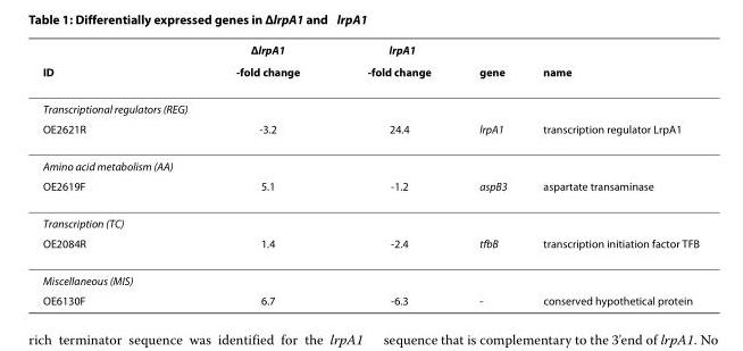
<table><thead><tr><td rowspan="2">ID</td><td rowspan="2">ΔlrpA1 -fold change</td><td rowspan="2">↑lrpA1 -fold change</td><td rowspan="2">gene</td><td rowspan="2">name</td></tr><tr></tr></thead><tbody><tr><td colspan="5">Transcriptional regulators (REG)</td></tr><tr><td>OE2621R</td><td>-3.2</td><td>24.4</td><td>lrpA1</td><td>transcription regulator LrpA1</td></tr><tr><td colspan="5">Amino acid metabolism (AA)</td></tr><tr><td>OE2619F</td><td>5.1</td><td>-1.2</td><td>aspB3</td><td>aspartate transaminase</td></tr><tr><td colspan="5">Transcription (TC)</td></tr><tr><td>OE2084R</td><td>1.4</td><td>-2.4</td><td>tfbB</td><td>transcription initiation factor TFB</td></tr><tr><td colspan="5">Miscellaneous (MIS)</td></tr><tr><td>OE6130F</td><td>6.7</td><td>-6.3</td><td>-</td><td>conserved hypothetical protein</td></tr></tbody></table>